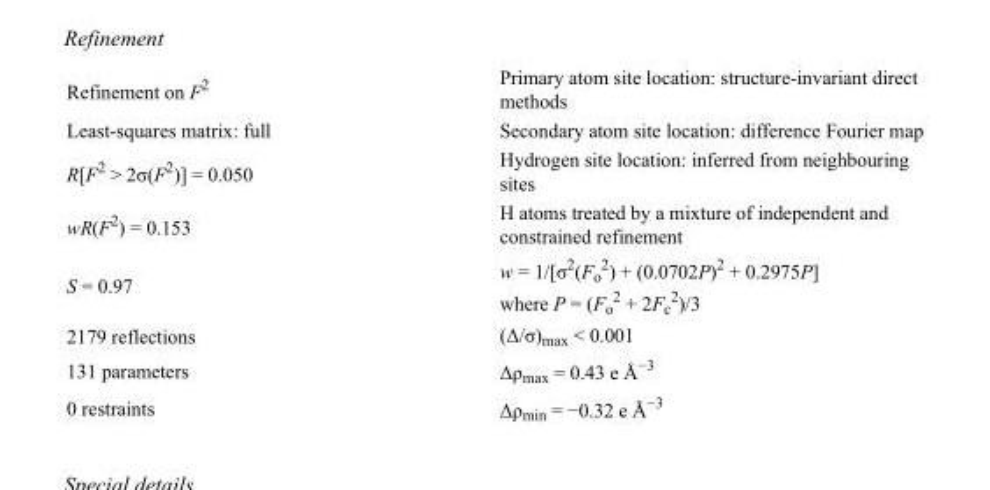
<table><tbody><tr><td>Refinement on F<sup>2</sup></td><td>Primary atom site location: structure-invariant direct methods</td></tr><tr><td>Least-squares matrix: full</td><td>Secondary atom site location: difference Fourier map</td></tr><tr><td>R[F<sup>2</sup> &gt; 2σ(F<sup>2</sup>)] = 0.050</td><td>Hydrogen site location: inferred from neighbouring sites</td></tr><tr><td>wR(F<sup>2</sup>) = 0.153</td><td>H atoms treated by a mixture of independent and constrained refinement</td></tr><tr><td>S = 0.97</td><td>w = 1/[σ<sup>2</sup>(F<sub>o</sub> <sup>2</sup>) + (0.0702P)<sup>2</sup> + 0.2975P] where P = (F<sub>o</sub> <sup>2</sup> + 2F<sub>c</sub> <sup>2</sup>)/3</td></tr><tr><td>2179 reflections</td><td>(Δ/σ)<sub>max</sub> &lt; 0.001</td></tr><tr><td>131 parameters</td><td>Δρ<sub>max</sub> = 0.43 e Å<sup>−3</sup></td></tr><tr><td>0 restraints</td><td>Δρ<sub>min</sub> = −0.32 e Å<sup>−3</sup></td></tr></tbody></table>